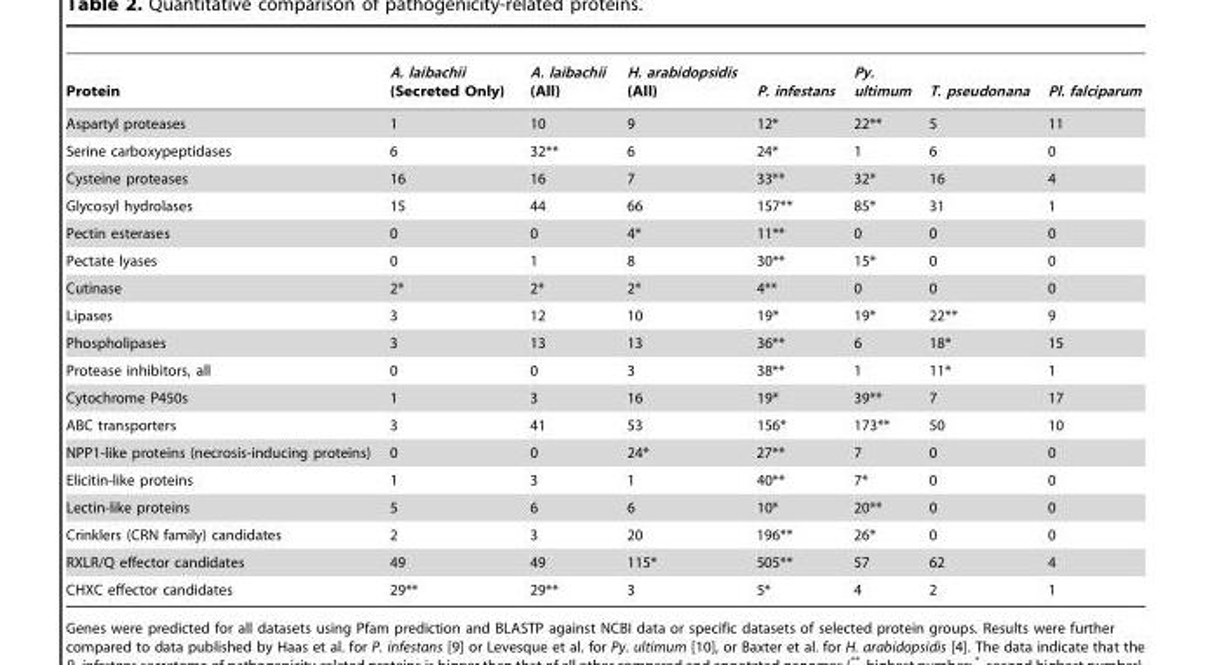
<table><thead><tr><td>Protein</td><td>A. laibachii (Secreted Only)</td><td>A. laibachii (All)</td><td>H. arabidopsidis (All)</td><td>P. infestans</td><td>Py. ultimum</td><td>T. pseudonana</td><td>Pl. falciparum</td></tr></thead><tbody><tr><td>Aspartyl proteases</td><td>1</td><td>10</td><td>9</td><td>12*</td><td>22**</td><td>5</td><td>11</td></tr><tr><td>Serine carboxypeptidases</td><td>6</td><td>32**</td><td>6</td><td>24*</td><td>1</td><td>6</td><td>0</td></tr><tr><td>Cysteine proteases</td><td>16</td><td>16</td><td>7</td><td>33**</td><td>32*</td><td>16</td><td>4</td></tr><tr><td>Glycosyl hydrolases</td><td>15</td><td>44</td><td>66</td><td>157**</td><td>85*</td><td>31</td><td>1</td></tr><tr><td>Pectin esterases</td><td>0</td><td>0</td><td>4*</td><td>11**</td><td>0</td><td>0</td><td>0</td></tr><tr><td>Pectate lyases</td><td>0</td><td>1</td><td>8</td><td>30**</td><td>15*</td><td>0</td><td>0</td></tr><tr><td>Cutinase</td><td>2*</td><td>2*</td><td>2*</td><td>4**</td><td>0</td><td>0</td><td>0</td></tr><tr><td>Lipases</td><td>3</td><td>12</td><td>10</td><td>19*</td><td>19*</td><td>22**</td><td>9</td></tr><tr><td>Phospholipases</td><td>3</td><td>13</td><td>13</td><td>36**</td><td>6</td><td>18*</td><td>15</td></tr><tr><td>Protease inhibitors, all</td><td>0</td><td>0</td><td>3</td><td>38**</td><td>1</td><td>11*</td><td>1</td></tr><tr><td>Cytochrome P450s</td><td>1</td><td>3</td><td>16</td><td>19*</td><td>39**</td><td>7</td><td>17</td></tr><tr><td>ABC transporters</td><td>3</td><td>41</td><td>53</td><td>156*</td><td>173**</td><td>50</td><td>10</td></tr><tr><td>NPP1-like proteins (necrosis-inducing proteins)</td><td>0</td><td>0</td><td>24*</td><td>27**</td><td>7</td><td>0</td><td>0</td></tr><tr><td>Elicitin-like proteins</td><td>1</td><td>3</td><td>1</td><td>40**</td><td>7*</td><td>0</td><td>0</td></tr><tr><td>Lectin-like proteins</td><td>5</td><td>6</td><td>6</td><td>10*</td><td>20**</td><td>0</td><td>0</td></tr><tr><td>Crinklers (CRN family) candidates</td><td>2</td><td>3</td><td>20</td><td>196**</td><td>26*</td><td>0</td><td>0</td></tr><tr><td>RXLR/Q effector candidates</td><td>49</td><td>49</td><td>115*</td><td>505**</td><td>57</td><td>62</td><td>4</td></tr><tr><td>CHXC effector candidates</td><td>29**</td><td>29**</td><td>3</td><td>5*</td><td>4</td><td>2</td><td>1</td></tr></tbody></table>